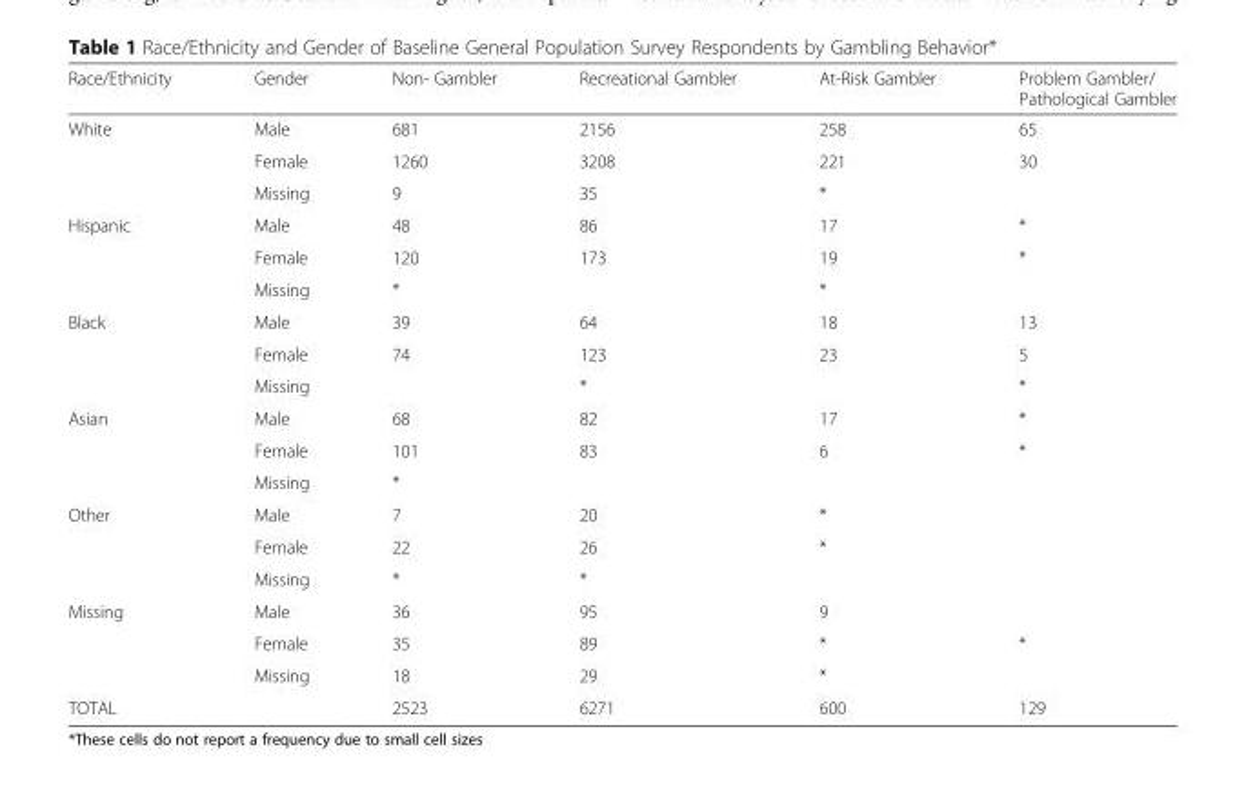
<table><thead><tr><td>Race/Ethnicity</td><td>Gender</td><td>Non- Gambler</td><td>Recreational Gambler</td><td>At-Risk Gambler</td><td>Problem Gambler/ Pathological Gambler</td></tr></thead><tbody><tr><td rowspan="3">White</td><td>Male</td><td>681</td><td>2156</td><td>258</td><td>65</td></tr><tr><td>Female</td><td>1260</td><td>3208</td><td>221</td><td>30</td></tr><tr><td>Missing</td><td>9</td><td>35</td><td>*</td><td></td></tr><tr><td rowspan="3">Hispanic</td><td>Male</td><td>48</td><td>86</td><td>17</td><td>*</td></tr><tr><td>Female</td><td>120</td><td>173</td><td>19</td><td>*</td></tr><tr><td>Missing</td><td>*</td><td></td><td>*</td><td></td></tr><tr><td rowspan="3">Black</td><td>Male</td><td>39</td><td>64</td><td>18</td><td>13</td></tr><tr><td>Female</td><td>74</td><td>123</td><td>23</td><td>5</td></tr><tr><td>Missing</td><td></td><td>*</td><td></td><td>*</td></tr><tr><td rowspan="3">Asian</td><td>Male</td><td>68</td><td>82</td><td>17</td><td>*</td></tr><tr><td>Female</td><td>101</td><td>83</td><td>6</td><td>*</td></tr><tr><td>Missing</td><td>*</td><td></td><td></td><td></td></tr><tr><td rowspan="3">Other</td><td>Male</td><td>7</td><td>20</td><td>*</td><td></td></tr><tr><td>Female</td><td>22</td><td>26</td><td>*</td><td></td></tr><tr><td>Missing</td><td>*</td><td>*</td><td></td><td></td></tr><tr><td rowspan="3">Missing</td><td>Male</td><td>36</td><td>95</td><td>9</td><td></td></tr><tr><td>Female</td><td>35</td><td>89</td><td>*</td><td>*</td></tr><tr><td>Missing</td><td>18</td><td>29</td><td>*</td><td></td></tr><tr><td>TOTAL</td><td></td><td>2523</td><td>6271</td><td>600</td><td>129</td></tr></tbody></table>